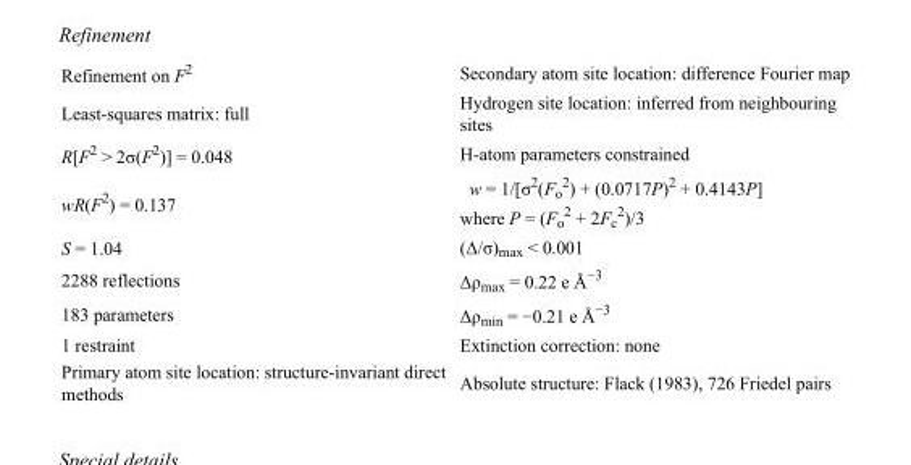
<table><tbody><tr><td>Refinement on F<sup>2</sup></td><td>Secondary atom site location: difference Fourier map</td></tr><tr><td>Least-squares matrix: full</td><td>Hydrogen site location: inferred from neighbouring sites</td></tr><tr><td>R[F<sup>2</sup> &gt; 2σ(F<sup>2</sup>)] = 0.048</td><td>H-atom parameters constrained</td></tr><tr><td>wR(F<sup>2</sup>) = 0.137</td><td>w = 1/[σ<sup>2</sup>(F<sub>o</sub> <sup>2</sup>) + (0.0717P)<sup>2</sup> + 0.4143P] where P = (F<sub>o</sub> <sup>2</sup> + 2F<sub>c</sub> <sup>2</sup>)/3</td></tr><tr><td>S = 1.04</td><td>(Δ/σ)<sub>max</sub> &lt; 0.001</td></tr><tr><td>2288 reflections</td><td>Δρ<sub>max</sub> = 0.22 e Å<sup>−3</sup></td></tr><tr><td>183 parameters</td><td>Δρ<sub>min</sub> = −0.21 e Å<sup>−3</sup></td></tr><tr><td>1 restraint</td><td>Extinction correction: none</td></tr><tr><td>Primary atom site location: structure-invariant direct methods</td><td>Absolute structure: Flack (1983), 726 Friedel pairs</td></tr></tbody></table>